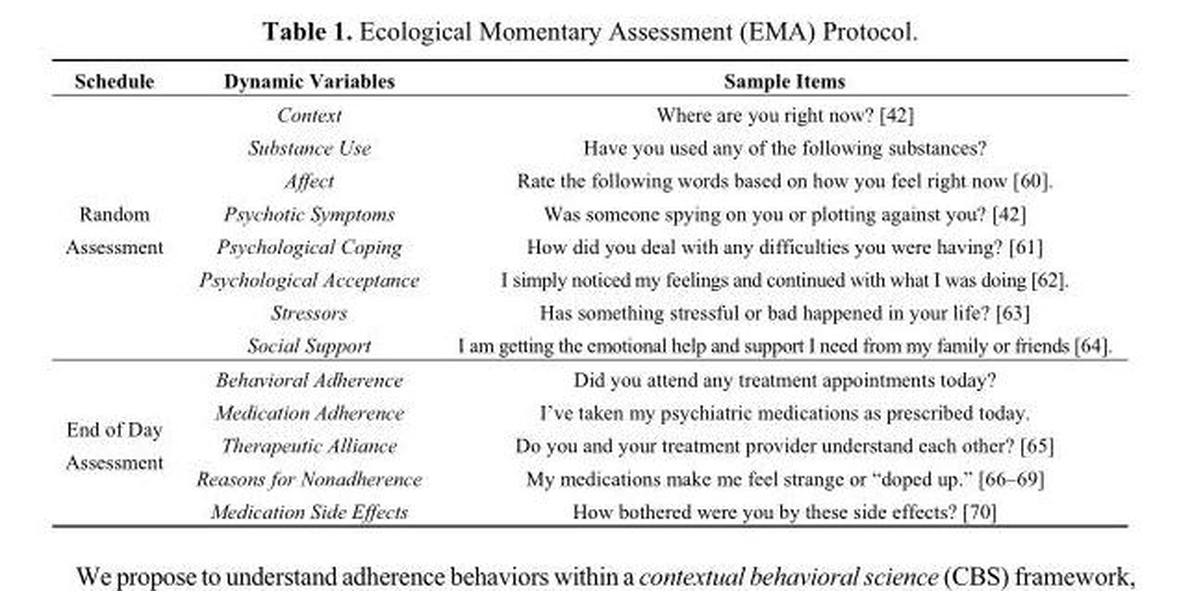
<table><thead><tr><td>Schedule</td><td>Dynamic Variables</td><td>Sample Items</td></tr></thead><tbody><tr><td rowspan="8">Random Assessment</td><td>Context</td><td>Where are you right now? [42]</td></tr><tr><td>Substance Use</td><td>Have you used any of the following substances?</td></tr><tr><td>Affect</td><td>Rate the following words based on how you feel right now [60].</td></tr><tr><td>Psychotic Symptoms</td><td>Was someone spying on you or plotting against you? [42]</td></tr><tr><td>Psychological Coping</td><td>How did you deal with any difficulties you were having? [61]</td></tr><tr><td>Psychological Acceptance</td><td>I simply noticed my feelings and continued with what I was doing [62].</td></tr><tr><td>Stressors</td><td>Has something stressful or bad happened in your life? [63]</td></tr><tr><td>Social Support</td><td>I am getting the emotional help and support I need from my family or friends [64].</td></tr><tr><td rowspan="5">End of Day Assessment</td><td>Behavioral Adherence</td><td>Did you attend any treatment appointments today?</td></tr><tr><td>Medication Adherence</td><td>I’ve taken my psychiatric medications as prescribed today.</td></tr><tr><td>Therapeutic Alliance</td><td>Do you and your treatment provider understand each other? [65]</td></tr><tr><td>Reasons for Nonadherence</td><td>My medications make me feel strange or “doped up.” [66–69]</td></tr><tr><td>Medication Side Effects</td><td>How bothered were you by these side effects? [70]</td></tr></tbody></table>